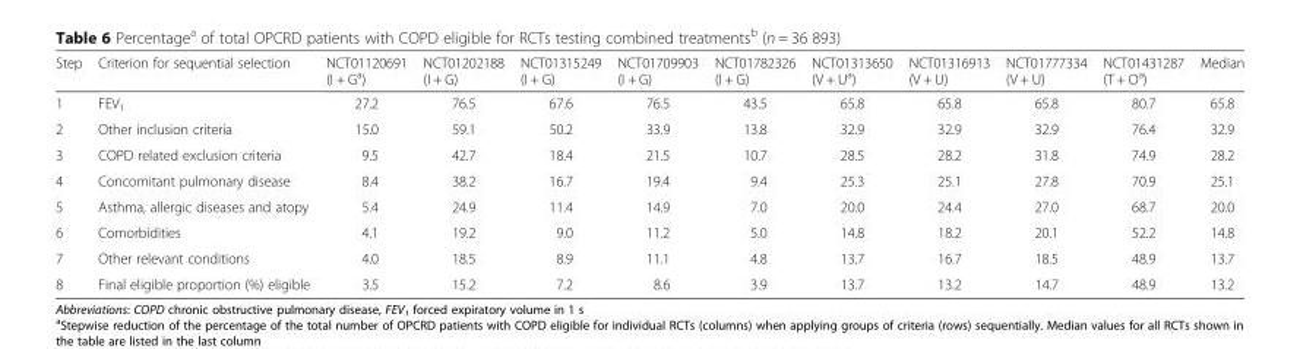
<table><thead><tr><td>Step</td><td>Criterion for sequential selection</td><td>NCT01120691 (I + G<sup>a</sup>)</td><td>NCT01202188 (I + G)</td><td>NCT01315249 (I + G)</td><td>NCT01709903 (I + G)</td><td>NCT01782326 (I + G)</td><td>NCT01313650 (V + U<sup>a</sup>)</td><td>NCT01316913 (V + U)</td><td>NCT01777334 (V + U)</td><td>NCT01431287 (T + O<sup>a</sup>)</td><td>Median</td></tr></thead><tbody><tr><td>1</td><td>FEV<sub>1</sub></td><td>27.2</td><td>76.5</td><td>67.6</td><td>76.5</td><td>43.5</td><td>65.8</td><td>65.8</td><td>65.8</td><td>80.7</td><td>65.8</td></tr><tr><td>2</td><td>Other inclusion criteria</td><td>15.0</td><td>59.1</td><td>50.2</td><td>33.9</td><td>13.8</td><td>32.9</td><td>32.9</td><td>32.9</td><td>76.4</td><td>32.9</td></tr><tr><td>3</td><td>COPD related exclusion criteria</td><td>9.5</td><td>42.7</td><td>18.4</td><td>21.5</td><td>10.7</td><td>28.5</td><td>28.2</td><td>31.8</td><td>74.9</td><td>28.2</td></tr><tr><td>4</td><td>Concomitant pulmonary disease</td><td>8.4</td><td>38.2</td><td>16.7</td><td>19.4</td><td>9.4</td><td>25.3</td><td>25.1</td><td>27.8</td><td>70.9</td><td>25.1</td></tr><tr><td>5</td><td>Asthma, allergic diseases and atopy</td><td>5.4</td><td>24.9</td><td>11.4</td><td>14.9</td><td>7.0</td><td>20.0</td><td>24.4</td><td>27.0</td><td>68.7</td><td>20.0</td></tr><tr><td>6</td><td>Comorbidities</td><td>4.1</td><td>19.2</td><td>9.0</td><td>11.2</td><td>5.0</td><td>14.8</td><td>18.2</td><td>20.1</td><td>52.2</td><td>14.8</td></tr><tr><td>7</td><td>Other relevant conditions</td><td>4.0</td><td>18.5</td><td>8.9</td><td>11.1</td><td>4.8</td><td>13.7</td><td>16.7</td><td>18.5</td><td>48.9</td><td>13.7</td></tr><tr><td>8</td><td>Final eligible proportion (%) eligible</td><td>3.5</td><td>15.2</td><td>7.2</td><td>8.6</td><td>3.9</td><td>13.7</td><td>13.2</td><td>14.7</td><td>48.9</td><td>13.2</td></tr></tbody></table>